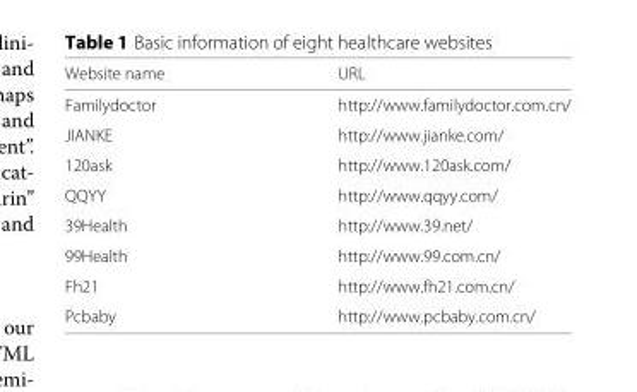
<table><thead><tr><td>Website name</td><td>URL</td></tr></thead><tbody><tr><td>Familydoctor</td><td>http://www.familydoctor.com.cn/</td></tr><tr><td>JIANKE</td><td>http://www.jianke.com/</td></tr><tr><td>120ask</td><td>http://www.120ask.com/</td></tr><tr><td>QQYY</td><td>http://www.qqyy.com/</td></tr><tr><td>39Health</td><td>http://www.39.net/</td></tr><tr><td>99Health</td><td>http://www.99.com.cn/</td></tr><tr><td>Fh21</td><td>http://www.fh21.com.cn/</td></tr><tr><td>Pcbaby</td><td>http://www.pcbaby.com.cn/</td></tr></tbody></table>